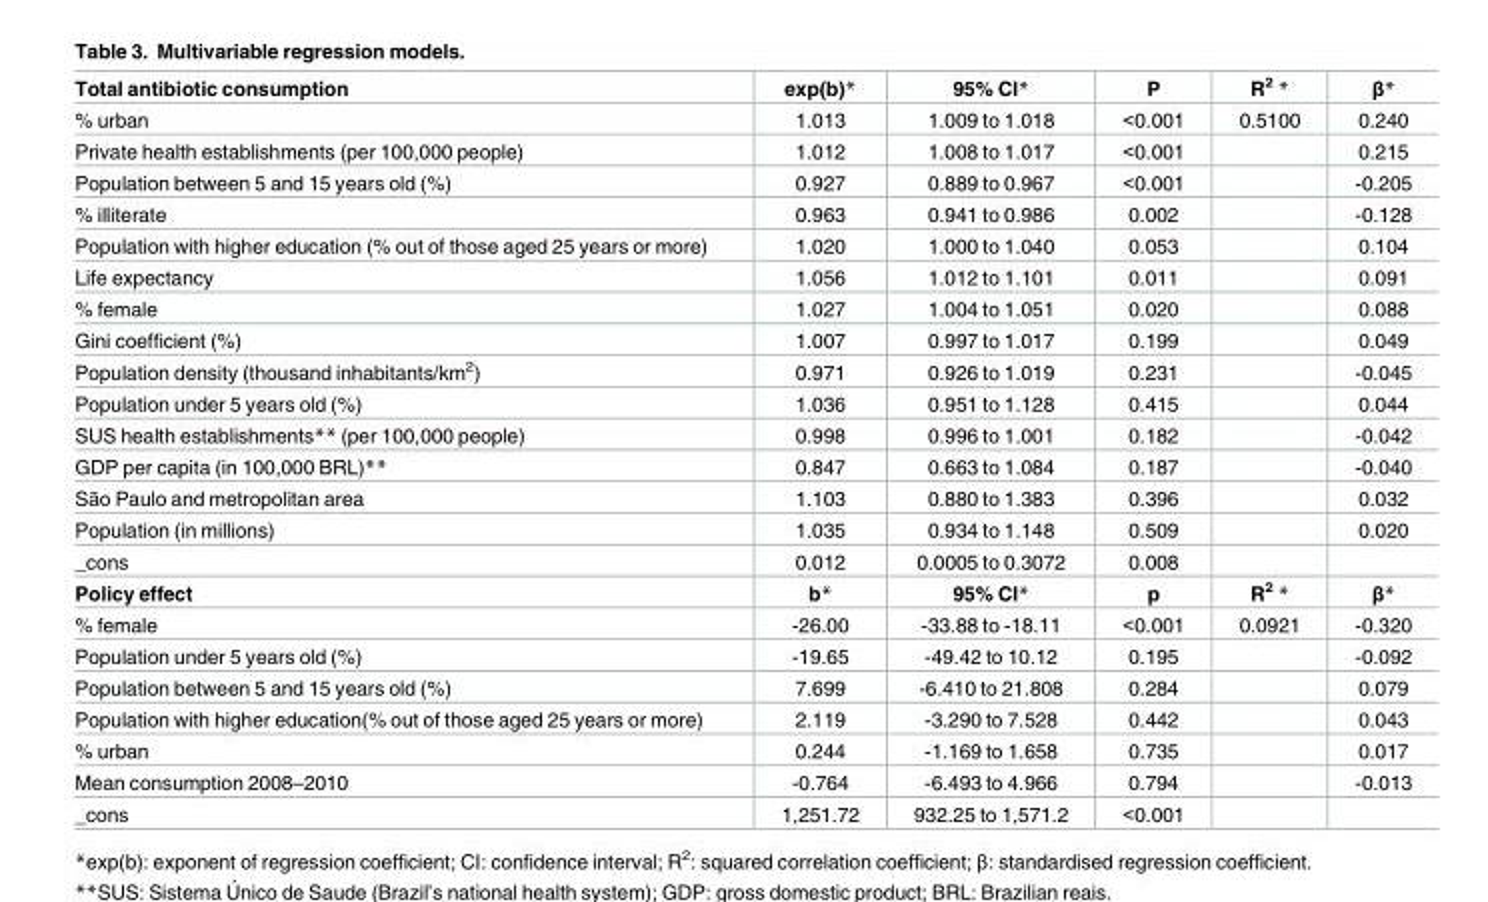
<table><tbody><tr><td>Total antibiotic consumption</td><td>exp(b)*</td><td>95% CI*</td><td>P</td><td>R<sup>2</sup> *</td><td>β*</td></tr><tr><td>% urban</td><td>1.013</td><td>1.009 to 1.018</td><td>&lt;0.001</td><td>0.5100</td><td>0.240</td></tr><tr><td>Private health establishments (per 100,000 people)</td><td>1.012</td><td>1.008 to 1.017</td><td>&lt;0.001</td><td></td><td>0.215</td></tr><tr><td>Population between 5 and 15 years old (%)</td><td>0.927</td><td>0.889 to 0.967</td><td>&lt;0.001</td><td></td><td>-0.205</td></tr><tr><td>% illiterate</td><td>0.963</td><td>0.941 to 0.986</td><td>0.002</td><td></td><td>-0.128</td></tr><tr><td>Population with higher education (% out of those aged 25 years or more)</td><td>1.020</td><td>1.000 to 1.040</td><td>0.053</td><td></td><td>0.104</td></tr><tr><td>Life expectancy</td><td>1.056</td><td>1.012 to 1.101</td><td>0.011</td><td></td><td>0.091</td></tr><tr><td>% female</td><td>1.027</td><td>1.004 to 1.051</td><td>0.020</td><td></td><td>0.088</td></tr><tr><td>Gini coefficient (%)</td><td>1.007</td><td>0.997 to 1.017</td><td>0.199</td><td></td><td>0.049</td></tr><tr><td>Population density (thousand inhabitants/km<sup>2</sup>)</td><td>0.971</td><td>0.926 to 1.019</td><td>0.231</td><td></td><td>-0.045</td></tr><tr><td>Population under 5 years old (%)</td><td>1.036</td><td>0.951 to 1.128</td><td>0.415</td><td></td><td>0.044</td></tr><tr><td>SUS health establishments** (per 100,000 people)</td><td>0.998</td><td>0.996 to 1.001</td><td>0.182</td><td></td><td>-0.042</td></tr><tr><td>GDP per capita (in 100,000 BRL)**</td><td>0.847</td><td>0.663 to 1.084</td><td>0.187</td><td></td><td>-0.040</td></tr><tr><td>São Paulo and metropolitan area</td><td>1.103</td><td>0.880 to 1.383</td><td>0.396</td><td></td><td>0.032</td></tr><tr><td>Population (in millions)</td><td>1.035</td><td>0.934 to 1.148</td><td>0.509</td><td></td><td>0.020</td></tr><tr><td>_cons</td><td>0.012</td><td>0.0005 to 0.3072</td><td>0.008</td><td></td><td></td></tr><tr><td>Policy effect</td><td>b*</td><td>95% CI*</td><td>p</td><td>R<sup>2</sup> *</td><td>β*</td></tr><tr><td>% female</td><td>-26.00</td><td>-33.88 to -18.11</td><td>&lt;0.001</td><td>0.0921</td><td>-0.320</td></tr><tr><td>Population under 5 years old (%)</td><td>-19.65</td><td>-49.42 to 10.12</td><td>0.195</td><td></td><td>-0.092</td></tr><tr><td>Population between 5 and 15 years old (%)</td><td>7.699</td><td>-6.410 to 21.808</td><td>0.284</td><td></td><td>0.079</td></tr><tr><td>Population with higher education(% out of those aged 25 years or more)</td><td>2.119</td><td>-3.290 to 7.528</td><td>0.442</td><td></td><td>0.043</td></tr><tr><td>% urban</td><td>0.244</td><td>-1.169 to 1.658</td><td>0.735</td><td></td><td>0.017</td></tr><tr><td>Mean consumption 2008–2010</td><td>-0.764</td><td>-6.493 to 4.966</td><td>0.794</td><td></td><td>-0.013</td></tr><tr><td>_cons</td><td>1,251.72</td><td>932.25 to 1,571.2</td><td>&lt;0.001</td><td></td><td></td></tr></tbody></table>